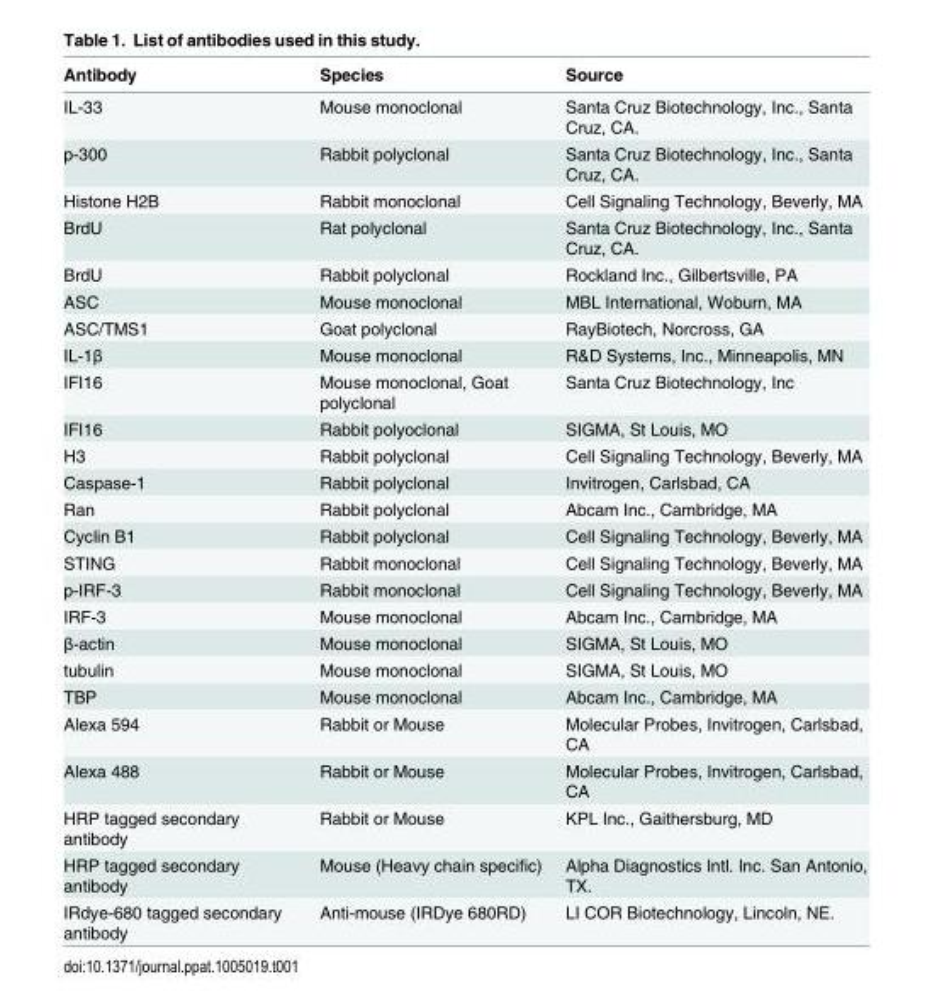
<table><thead><tr><td>Antibody</td><td>Species</td><td>Source</td></tr></thead><tbody><tr><td>IL-33</td><td>Mouse monoclonal</td><td>Santa Cruz Biotechnology, Inc., Santa Cruz, CA.</td></tr><tr><td>p-300</td><td>Rabbit polyclonal</td><td>Santa Cruz Biotechnology, Inc., Santa Cruz, CA.</td></tr><tr><td>Histone H2B</td><td>Rabbit monoclonal</td><td>Cell Signaling Technology, Beverly, MA</td></tr><tr><td>BrdU</td><td>Rat polyclonal</td><td>Santa Cruz Biotechnology, Inc., Santa Cruz, CA.</td></tr><tr><td>BrdU</td><td>Rabbit polyclonal</td><td>Rockland Inc., Gilbertsville, PA</td></tr><tr><td>ASC</td><td>Mouse monoclonal</td><td>MBL International, Woburn, MA</td></tr><tr><td>ASC/TMS1</td><td>Goat polyclonal</td><td>RayBiotech, Norcross, GA</td></tr><tr><td>IL-1β</td><td>Mouse monoclonal</td><td>R&amp;D Systems, Inc., Minneapolis, MN</td></tr><tr><td>IFI16</td><td>Mouse monoclonal, Goat polyclonal</td><td>Santa Cruz Biotechnology, Inc</td></tr><tr><td>IFI16</td><td>Rabbit polyoclonal</td><td>SIGMA, St Louis, MO</td></tr><tr><td>H3</td><td>Rabbit polyclonal</td><td>Cell Signaling Technology, Beverly, MA</td></tr><tr><td>Caspase-1</td><td>Rabbit polyclonal</td><td>Invitrogen, Carlsbad, CA</td></tr><tr><td>Ran</td><td>Rabbit polyclonal</td><td>Abcam Inc., Cambridge, MA</td></tr><tr><td>Cyclin B1</td><td>Rabbit polyclonal</td><td>Cell Signaling Technology, Beverly, MA</td></tr><tr><td>STING</td><td>Rabbit monoclonal</td><td>Cell Signaling Technology, Beverly, MA</td></tr><tr><td>p-IRF-3</td><td>Rabbit monoclonal</td><td>Cell Signaling Technology, Beverly, MA</td></tr><tr><td>IRF-3</td><td>Mouse monoclonal</td><td>Abcam Inc., Cambridge, MA</td></tr><tr><td>β-actin</td><td>Mouse monoclonal</td><td>SIGMA, St Louis, MO</td></tr><tr><td>tubulin</td><td>Mouse monoclonal</td><td>SIGMA, St Louis, MO</td></tr><tr><td>TBP</td><td>Mouse monoclonal</td><td>Abcam Inc., Cambridge, MA</td></tr><tr><td>Alexa 594</td><td>Rabbit or Mouse</td><td>Molecular Probes, Invitrogen, Carlsbad, CA</td></tr><tr><td>Alexa 488</td><td>Rabbit or Mouse</td><td>Molecular Probes, Invitrogen, Carlsbad, CA</td></tr><tr><td>HRP tagged secondary antibody</td><td>Rabbit or Mouse</td><td>KPL Inc., Gaithersburg, MD</td></tr><tr><td>HRP tagged secondary antibody</td><td>Mouse (Heavy chain specific)</td><td>Alpha Diagnostics Intl. Inc. San Antonio, TX.</td></tr><tr><td>IRdye-680 tagged secondary antibody</td><td>Anti-mouse (IRDye 680RD)</td><td>LI COR Biotechnology, Lincoln, NE.</td></tr></tbody></table>